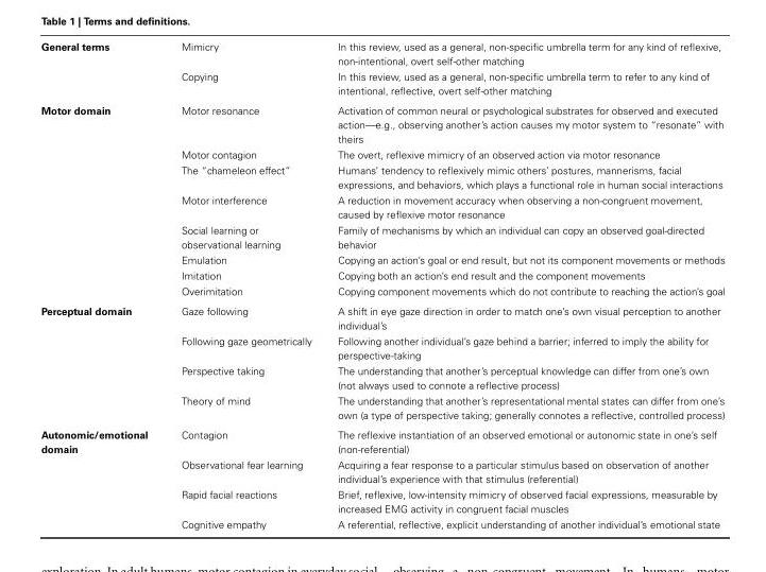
<table><tbody><tr><td rowspan="2">General terms</td><td>Mimicry</td><td>In this review, used as a general, non-specific umbrella term for any kind of reflexive, non-intentional, overt self-other matching</td></tr><tr><td>Copying</td><td>In this review, used as a general, non-specific umbrella term to refer to any kind of intentional, reflective, overt self-other matching</td></tr><tr><td rowspan="8">Motor domain</td><td>Motor resonance</td><td>Activation of common neural or psychological substrates for observed and executed action—e.g., observing another’s action causes my motor system to “resonate” with theirs</td></tr><tr><td>Motor contagion</td><td>The overt, reflexive mimicry of an observed action via motor resonance</td></tr><tr><td>The “chameleon effect”</td><td>Humans’ tendency to reflexively mimic others’ postures, mannerisms, facial expressions, and behaviors, which plays a functional role in human social interactions</td></tr><tr><td>Motor interference</td><td>A reduction in movement accuracy when observing a non-congruent movement, caused by reflexive motor resonance</td></tr><tr><td>Social learning or observational learning</td><td>Family of mechanisms by which an individual can copy an observed goal-directed behavior</td></tr><tr><td>Emulation</td><td>Copying an action’s goal or end result, but not its component movements or methods</td></tr><tr><td>Imitation</td><td>Copying both an action’s end result and the component movements</td></tr><tr><td>Overimitation</td><td>Copying component movements which do not contribute to reaching the action’s goal</td></tr><tr><td rowspan="4">Perceptual domain</td><td>Gaze following</td><td>A shift in eye gaze direction in order to match one’s own visual perception to another individual’s</td></tr><tr><td>Following gaze geometrically</td><td>Following another individual’s gaze behind a barrier; inferred to imply the ability for perspective-taking</td></tr><tr><td>Perspective taking</td><td>The understanding that another’s perceptual knowledge can differ from one’s own (not always used to connote a reflective process)</td></tr><tr><td>Theory of mind</td><td>The understanding that another’s representational mental states can differ from one’s own (a type of perspective taking; generally connotes a reflective, controlled process)</td></tr><tr><td rowspan="4">Autonomic/emotional domain</td><td>Contagion</td><td>The reflexive instantiation of an observed emotional or autonomic state in one’s self (non-referential)</td></tr><tr><td>Observational fear learning</td><td>Acquiring a fear response to a particular stimulus based on observation of another individual’s experience with that stimulus (referential)</td></tr><tr><td>Rapid facial reactions</td><td>Brief, reflexive, low-intensity mimicry of observed facial expressions, measurable by increased EMG activity in congruent facial muscles</td></tr><tr><td>Cognitive empathy</td><td>A referential, reflective, explicit understanding of another individual’s emotional state</td></tr></tbody></table>